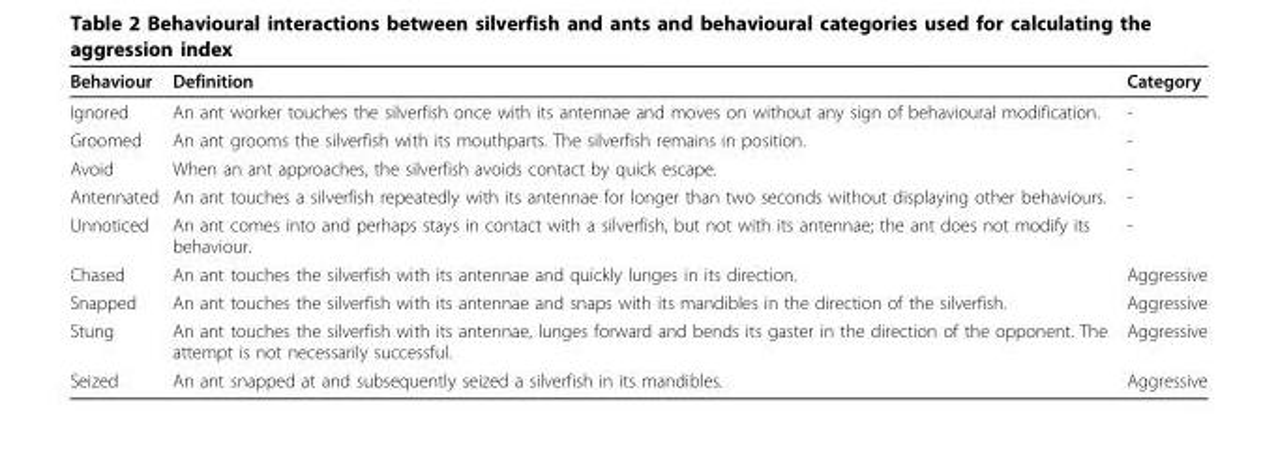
<table><thead><tr><td>Behaviour</td><td>Definition</td><td>Category</td></tr></thead><tbody><tr><td>Ignored</td><td>An ant worker touches the silverfish once with its antennae and moves on without any sign of behavioural modification.</td><td>-</td></tr><tr><td>Groomed</td><td>An ant grooms the silverfish with its mouthparts. The silverfish remains in position.</td><td>-</td></tr><tr><td>Avoid</td><td>When an ant approaches, the silverfish avoids contact by quick escape.</td><td>-</td></tr><tr><td>Antennated</td><td>An ant touches a silverfish repeatedly with its antennae for longer than two seconds without displaying other behaviours.</td><td>-</td></tr><tr><td>Unnoticed</td><td>An ant comes into and perhaps stays in contact with a silverfish, but not with its antennae; the ant does not modify its behaviour.</td><td>-</td></tr><tr><td>Chased</td><td>An ant touches the silverfish with its antennae and quickly lunges in its direction.</td><td>Aggressive</td></tr><tr><td>Snapped</td><td>An ant touches the silverfish with its antennae and snaps with its mandibles in the direction of the silverfish.</td><td>Aggressive</td></tr><tr><td>Stung</td><td>An ant touches the silverfish with its antennae, lunges forward and bends its gaster in the direction of the opponent. The attempt is not necessarily successful.</td><td>Aggressive</td></tr><tr><td>Seized</td><td>An ant snapped at and subsequently seized a silverfish in its mandibles.</td><td>Aggressive</td></tr></tbody></table>